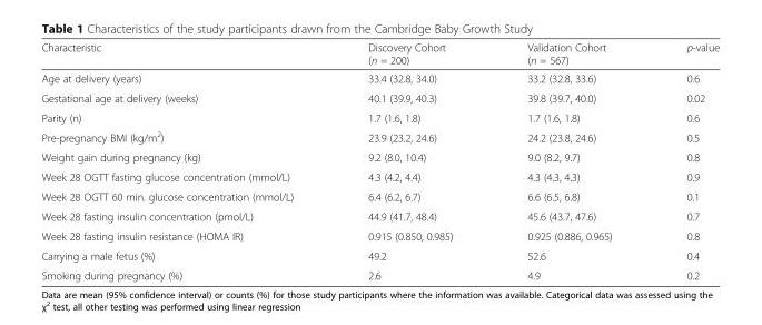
<table><thead><tr><td>Characteristic</td><td>Discovery Cohort (n = 200)</td><td>Validation Cohort (n = 567)</td><td>p-value</td></tr></thead><tbody><tr><td>Age at delivery (years)</td><td>33.4 (32.8, 34.0)</td><td>33.2 (32.8, 33.6)</td><td>0.6</td></tr><tr><td>Gestational age at delivery (weeks)</td><td>40.1 (39.9, 40.3)</td><td>39.8 (39.7, 40.0)</td><td>0.02</td></tr><tr><td>Parity (n)</td><td>1.7 (1.6, 1.8)</td><td>1.7 (1.6, 1.8)</td><td>0.6</td></tr><tr><td>Pre-pregnancy BMI (kg/m<sup>2</sup>)</td><td>23.9 (23.2, 24.6)</td><td>24.2 (23.8, 24.6)</td><td>0.5</td></tr><tr><td>Weight gain during pregnancy (kg)</td><td>9.2 (8.0, 10.4)</td><td>9.0 (8.2, 9.7)</td><td>0.8</td></tr><tr><td>Week 28 OGTT fasting glucose concentration (mmol/L)</td><td>4.3 (4.2, 4.4)</td><td>4.3 (4.3, 4.3)</td><td>0.9</td></tr><tr><td>Week 28 OGTT 60 min. glucose concentration (mmol/L)</td><td>6.4 (6.2, 6.7)</td><td>6.6 (6.5, 6.8)</td><td>0.1</td></tr><tr><td>Week 28 fasting insulin concentration (pmol/L)</td><td>44.9 (41.7, 48.4)</td><td>45.6 (43.7, 47.6)</td><td>0.7</td></tr><tr><td>Week 28 fasting insulin resistance (HOMA IR)</td><td>0.915 (0.850, 0.985)</td><td>0.925 (0.886, 0.965)</td><td>0.8</td></tr><tr><td>Carrying a male fetus (%)</td><td>49.2</td><td>52.6</td><td>0.4</td></tr><tr><td>Smoking during pregnancy (%)</td><td>2.6</td><td>4.9</td><td>0.2</td></tr></tbody></table>